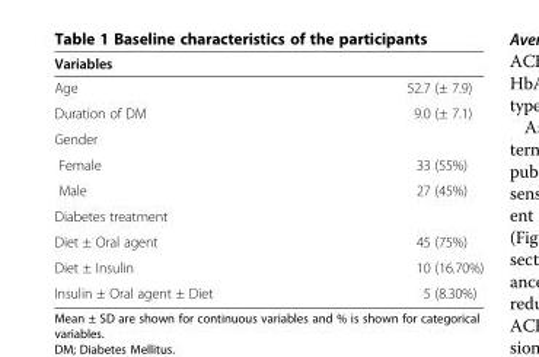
<table><thead><tr><td colspan="2">Variables</td></tr><tr><td>Age</td><td>52.7 (± 7.9)</td></tr></thead><tbody><tr><td>Duration of DM</td><td>9.0 (± 7.1)</td></tr><tr><td colspan="2">Gender</td></tr><tr><td>Female</td><td>33 (55%)</td></tr><tr><td>Male</td><td>27 (45%)</td></tr><tr><td colspan="2">Diabetes treatment</td></tr><tr><td>Diet ± Oral agent</td><td>45 (75%)</td></tr><tr><td>Diet ± Insulin</td><td>10 (16.70%)</td></tr><tr><td>Insulin ± Oral agent ± Diet</td><td>5 (8.30%)</td></tr></tbody></table>